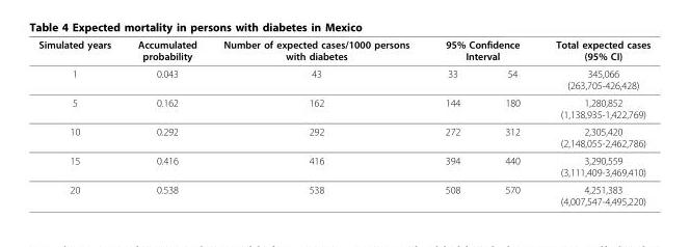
<table><thead><tr><td rowspan="2">Simulated years 1</td><td rowspan="2">Accumulated probability 0.043</td><td rowspan="2">Number of expected cases/1000 persons with diabetes 43</td><td colspan="2">95% Confidence Interval</td><td rowspan="2">Total expected cases (95% CI) 345,066 (263,705-426,428)</td></tr><tr><td>33</td><td>54</td></tr></thead><tbody><tr><td>5</td><td>0.162</td><td>162</td><td>144</td><td>180</td><td>1,280,852 (1,138,935-1,422,769)</td></tr><tr><td>10</td><td>0.292</td><td>292</td><td>272</td><td>312</td><td>2,305,420 (2,148,055-2,462,786)</td></tr><tr><td>15</td><td>0.416</td><td>416</td><td>394</td><td>440</td><td>3,290,559 (3,111,409-3,469,410)</td></tr><tr><td>20</td><td>0.538</td><td>538</td><td>508</td><td>570</td><td>4,251,383 (4,007,547-4,495,220)</td></tr></tbody></table>